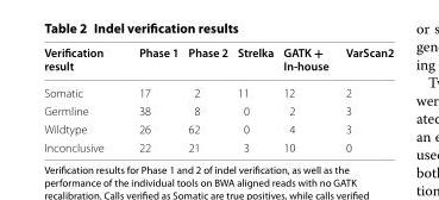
<table><thead><tr><td>Verification result</td><td>Phase 1</td><td>Phase 2</td><td>Strelka</td><td>GATK + In-house</td><td>VarScan2</td></tr></thead><tbody><tr><td>Somatic</td><td>17</td><td>2</td><td>11</td><td>12</td><td>2</td></tr><tr><td>Germline</td><td>38</td><td>8</td><td>0</td><td>2</td><td>3</td></tr><tr><td>Wildtype</td><td>26</td><td>62</td><td>0</td><td>4</td><td>3</td></tr><tr><td>Inconclusive</td><td>22</td><td>21</td><td>3</td><td>10</td><td>0</td></tr></tbody></table>